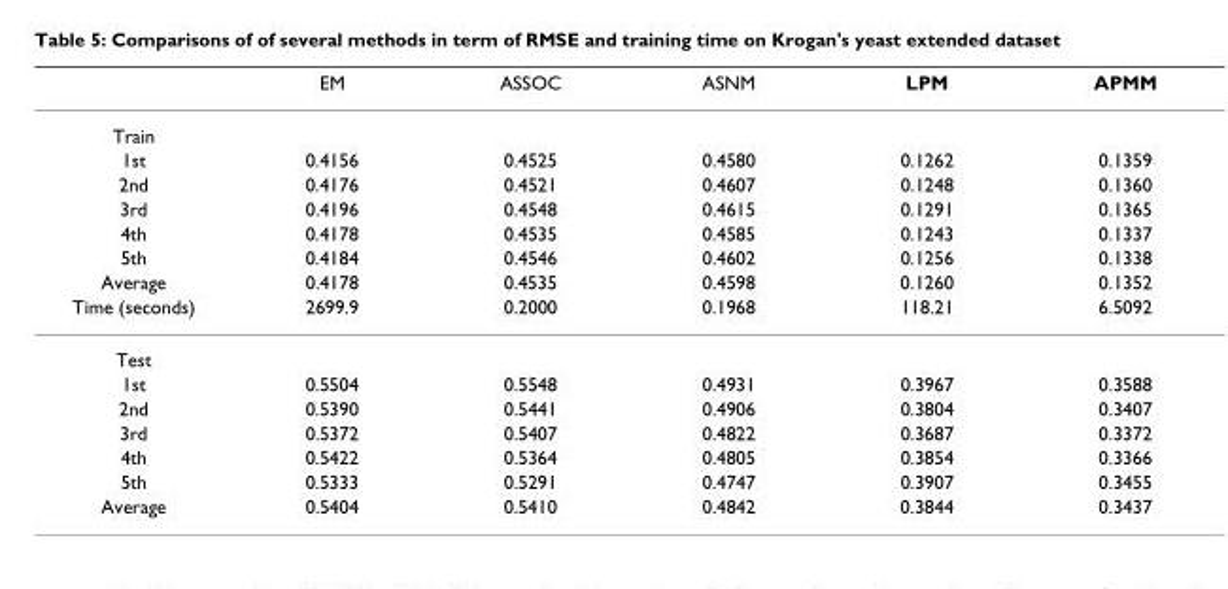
<table><thead><tr><td></td><td>EM</td><td>ASSOC</td><td>ASNM</td><td>LPM</td><td>APMM</td></tr></thead><tbody><tr><td colspan="6">Train</td></tr><tr><td>1st</td><td>0.4156</td><td>0.4525</td><td>0.4580</td><td>0.1262</td><td>0.1359</td></tr><tr><td>2nd</td><td>0.4176</td><td>0.4521</td><td>0.4607</td><td>0.1248</td><td>0.1360</td></tr><tr><td>3rd</td><td>0.4196</td><td>0.4548</td><td>0.4615</td><td>0.1291</td><td>0.1365</td></tr><tr><td>4th</td><td>0.4178</td><td>0.4535</td><td>0.4585</td><td>0.1243</td><td>0.1337</td></tr><tr><td>5th</td><td>0.4184</td><td>0.4546</td><td>0.4602</td><td>0.1256</td><td>0.1338</td></tr><tr><td>Average</td><td>0.4178</td><td>0.4535</td><td>0.4598</td><td>0.1260</td><td>0.1352</td></tr><tr><td>Time (seconds)</td><td>2699.9</td><td>0.2000</td><td>0.1968</td><td>118.21</td><td>6.5092</td></tr><tr><td colspan="6">Test</td></tr><tr><td>1st</td><td>0.5504</td><td>0.5548</td><td>0.4931</td><td>0.3967</td><td>0.3588</td></tr><tr><td>2nd</td><td>0.5390</td><td>0.5441</td><td>0.4906</td><td>0.3804</td><td>0.3407</td></tr><tr><td>3rd</td><td>0.5372</td><td>0.5407</td><td>0.4822</td><td>0.3687</td><td>0.3372</td></tr><tr><td>4th</td><td>0.5422</td><td>0.5364</td><td>0.4805</td><td>0.3854</td><td>0.3366</td></tr><tr><td>5th</td><td>0.5333</td><td>0.5291</td><td>0.4747</td><td>0.3907</td><td>0.3455</td></tr><tr><td>Average</td><td>0.5404</td><td>0.5410</td><td>0.4842</td><td>0.3844</td><td>0.3437</td></tr></tbody></table>